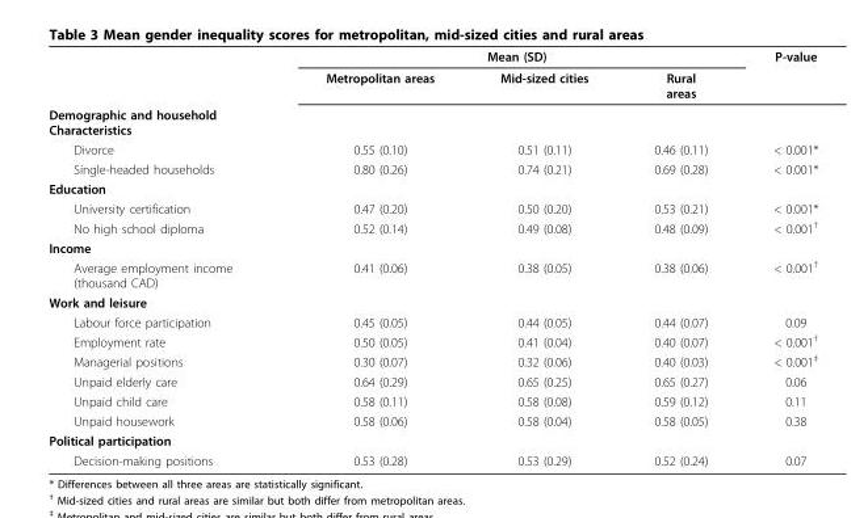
<table><thead><tr><td rowspan="2"></td><td colspan="3">Mean (SD)</td><td rowspan="2">P-value</td></tr><tr><td>Metropolitan areas</td><td>Mid-sized cities</td><td>Rural areas</td></tr></thead><tbody><tr><td colspan="5">Demographic and household Characteristics</td></tr><tr><td>Divorce</td><td>0.55 (0.10)</td><td>0.51 (0.11)</td><td>0.46 (0.11)</td><td>&lt; 0.001*</td></tr><tr><td>Single-headed households</td><td>0.80 (0.26)</td><td>0.74 (0.21)</td><td>0.69 (0.28)</td><td>&lt; 0.001*</td></tr><tr><td colspan="5">Education</td></tr><tr><td>University certification</td><td>0.47 (0.20)</td><td>0.50 (0.20)</td><td>0.53 (0.21)</td><td>&lt; 0.001*</td></tr><tr><td>No high school diploma</td><td>0.52 (0.14)</td><td>0.49 (0.08)</td><td>0.48 (0.09)</td><td>&lt; 0.001<sup>†</sup></td></tr><tr><td colspan="5">Income</td></tr><tr><td>Average employment income (thousand CAD)</td><td>0.41 (0.06)</td><td>0.38 (0.05)</td><td>0.38 (0.06)</td><td>&lt; 0.001<sup>†</sup></td></tr><tr><td colspan="5">Work and leisure</td></tr><tr><td>Labour force participation</td><td>0.45 (0.05)</td><td>0.44 (0.05)</td><td>0.44 (0.07)</td><td>0.09</td></tr><tr><td>Employment rate</td><td>0.50 (0.05)</td><td>0.41 (0.04)</td><td>0.40 (0.07)</td><td>&lt; 0.001<sup>†</sup></td></tr><tr><td>Managerial positions</td><td>0.30 (0.07)</td><td>0.32 (0.06)</td><td>0.40 (0.03)</td><td>&lt; 0.001<sup>‡</sup></td></tr><tr><td>Unpaid elderly care</td><td>0.64 (0.29)</td><td>0.65 (0.25)</td><td>0.65 (0.27)</td><td>0.06</td></tr><tr><td>Unpaid child care</td><td>0.58 (0.11)</td><td>0.58 (0.08)</td><td>0.59 (0.12)</td><td>0.11</td></tr><tr><td>Unpaid housework</td><td>0.58 (0.06)</td><td>0.58 (0.04)</td><td>0.58 (0.05)</td><td>0.38</td></tr><tr><td colspan="5">Political participation</td></tr><tr><td>Decision-making positions</td><td>0.53 (0.28)</td><td>0.53 (0.29)</td><td>0.52 (0.24)</td><td>0.07</td></tr></tbody></table>